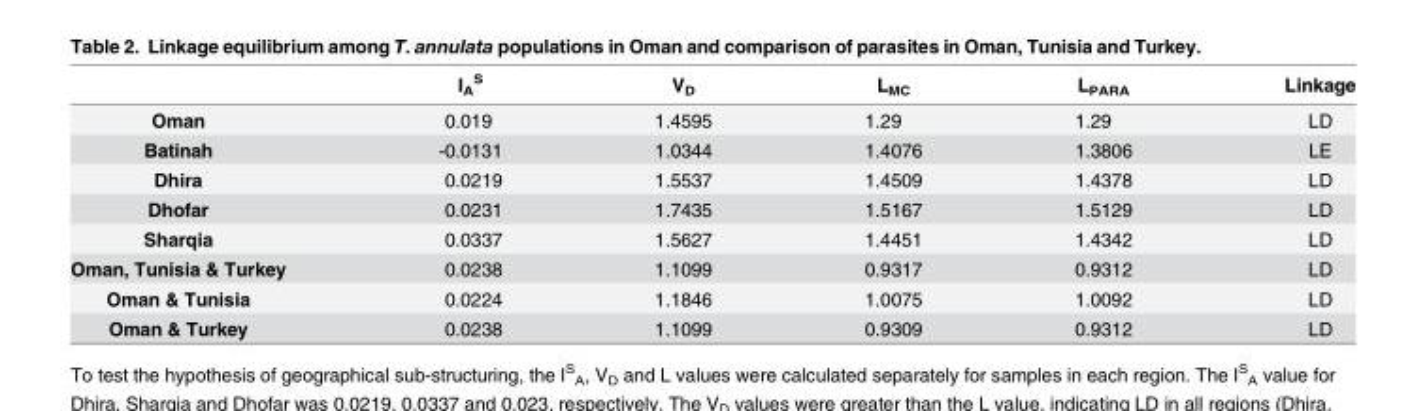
<table><thead><tr><td></td><td>I<sub>A</sub> <sup>S</sup></td><td>V<sub>D</sub></td><td>L<sub>MC</sub></td><td>L<sub>PARA</sub></td><td>Linkage</td></tr></thead><tbody><tr><td>Oman</td><td>0.019</td><td>1.4595</td><td>1.29</td><td>1.29</td><td>LD</td></tr><tr><td>Batinah</td><td>-0.0131</td><td>1.0344</td><td>1.4076</td><td>1.3806</td><td>LE</td></tr><tr><td>Dhira</td><td>0.0219</td><td>1.5537</td><td>1.4509</td><td>1.4378</td><td>LD</td></tr><tr><td>Dhofar</td><td>0.0231</td><td>1.7435</td><td>1.5167</td><td>1.5129</td><td>LD</td></tr><tr><td>Sharqia</td><td>0.0337</td><td>1.5627</td><td>1.4451</td><td>1.4342</td><td>LD</td></tr><tr><td>Oman, Tunisia &amp; Turkey</td><td>0.0238</td><td>1.1099</td><td>0.9317</td><td>0.9312</td><td>LD</td></tr><tr><td>Oman &amp; Tunisia</td><td>0.0224</td><td>1.1846</td><td>1.0075</td><td>1.0092</td><td>LD</td></tr><tr><td>Oman &amp; Turkey</td><td>0.0238</td><td>1.1099</td><td>0.9309</td><td>0.9312</td><td>LD</td></tr></tbody></table>